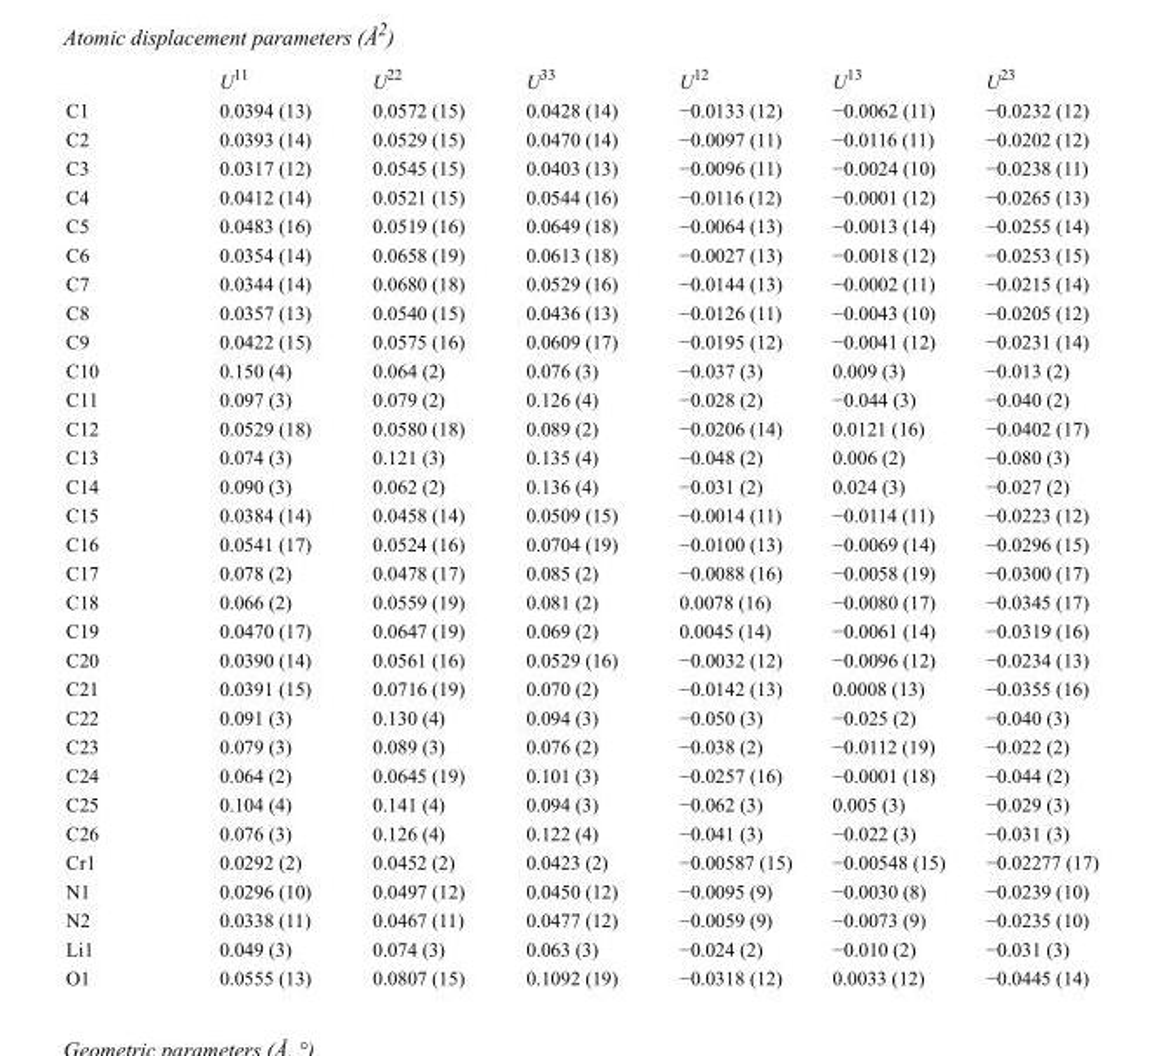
<table><thead><tr><td></td><td>U<sup>11</sup></td><td>U<sup>22</sup></td><td>U<sup>33</sup></td><td>U<sup>12</sup></td><td>U<sup>13</sup></td><td>U<sup>23</sup></td></tr></thead><tbody><tr><td>C1</td><td>0.0394 (13)</td><td>0.0572 (15)</td><td>0.0428 (14)</td><td>−0.0133 (12)</td><td>−0.0062 (11)</td><td>−0.0232 (12)</td></tr><tr><td>C2</td><td>0.0393 (14)</td><td>0.0529 (15)</td><td>0.0470 (14)</td><td>−0.0097 (11)</td><td>−0.0116 (11)</td><td>−0.0202 (12)</td></tr><tr><td>C3</td><td>0.0317 (12)</td><td>0.0545 (15)</td><td>0.0403 (13)</td><td>−0.0096 (11)</td><td>−0.0024 (10)</td><td>−0.0238 (11)</td></tr><tr><td>C4</td><td>0.0412 (14)</td><td>0.0521 (15)</td><td>0.0544 (16)</td><td>−0.0116 (12)</td><td>−0.0001 (12)</td><td>−0.0265 (13)</td></tr><tr><td>C5</td><td>0.0483 (16)</td><td>0.0519 (16)</td><td>0.0649 (18)</td><td>−0.0064 (13)</td><td>−0.0013 (14)</td><td>−0.0255 (14)</td></tr><tr><td>C6</td><td>0.0354 (14)</td><td>0.0658 (19)</td><td>0.0613 (18)</td><td>−0.0027 (13)</td><td>−0.0018 (12)</td><td>−0.0253 (15)</td></tr><tr><td>C7</td><td>0.0344 (14)</td><td>0.0680 (18)</td><td>0.0529 (16)</td><td>−0.0144 (13)</td><td>−0.0002 (11)</td><td>−0.0215 (14)</td></tr><tr><td>C8</td><td>0.0357 (13)</td><td>0.0540 (15)</td><td>0.0436 (13)</td><td>−0.0126 (11)</td><td>−0.0043 (10)</td><td>−0.0205 (12)</td></tr><tr><td>C9</td><td>0.0422 (15)</td><td>0.0575 (16)</td><td>0.0609 (17)</td><td>−0.0195 (12)</td><td>−0.0041 (12)</td><td>−0.0231 (14)</td></tr><tr><td>C10</td><td>0.150 (4)</td><td>0.064 (2)</td><td>0.076 (3)</td><td>−0.037 (3)</td><td>0.009 (3)</td><td>−0.013 (2)</td></tr><tr><td>C11</td><td>0.097 (3)</td><td>0.079 (2)</td><td>0.126 (4)</td><td>−0.028 (2)</td><td>−0.044 (3)</td><td>−0.040 (2)</td></tr><tr><td>C12</td><td>0.0529 (18)</td><td>0.0580 (18)</td><td>0.089 (2)</td><td>−0.0206 (14)</td><td>0.0121 (16)</td><td>−0.0402 (17)</td></tr><tr><td>C13</td><td>0.074 (3)</td><td>0.121 (3)</td><td>0.135 (4)</td><td>−0.048 (2)</td><td>0.006 (2)</td><td>−0.080 (3)</td></tr><tr><td>C14</td><td>0.090 (3)</td><td>0.062 (2)</td><td>0.136 (4)</td><td>−0.031 (2)</td><td>0.024 (3)</td><td>−0.027 (2)</td></tr><tr><td>C15</td><td>0.0384 (14)</td><td>0.0458 (14)</td><td>0.0509 (15)</td><td>−0.0014 (11)</td><td>−0.0114 (11)</td><td>−0.0223 (12)</td></tr><tr><td>C16</td><td>0.0541 (17)</td><td>0.0524 (16)</td><td>0.0704 (19)</td><td>−0.0100 (13)</td><td>−0.0069 (14)</td><td>−0.0296 (15)</td></tr><tr><td>C17</td><td>0.078 (2)</td><td>0.0478 (17)</td><td>0.085 (2)</td><td>−0.0088 (16)</td><td>−0.0058 (19)</td><td>−0.0300 (17)</td></tr><tr><td>C18</td><td>0.066 (2)</td><td>0.0559 (19)</td><td>0.081 (2)</td><td>0.0078 (16)</td><td>−0.0080 (17)</td><td>−0.0345 (17)</td></tr><tr><td>C19</td><td>0.0470 (17)</td><td>0.0647 (19)</td><td>0.069 (2)</td><td>0.0045 (14)</td><td>−0.0061 (14)</td><td>−0.0319 (16)</td></tr><tr><td>C20</td><td>0.0390 (14)</td><td>0.0561 (16)</td><td>0.0529 (16)</td><td>−0.0032 (12)</td><td>−0.0096 (12)</td><td>−0.0234 (13)</td></tr><tr><td>C21</td><td>0.0391 (15)</td><td>0.0716 (19)</td><td>0.070 (2)</td><td>−0.0142 (13)</td><td>0.0008 (13)</td><td>−0.0355 (16)</td></tr><tr><td>C22</td><td>0.091 (3)</td><td>0.130 (4)</td><td>0.094 (3)</td><td>−0.050 (3)</td><td>−0.025 (2)</td><td>−0.040 (3)</td></tr><tr><td>C23</td><td>0.079 (3)</td><td>0.089 (3)</td><td>0.076 (2)</td><td>−0.038 (2)</td><td>−0.0112 (19)</td><td>−0.022 (2)</td></tr><tr><td>C24</td><td>0.064 (2)</td><td>0.0645 (19)</td><td>0.101 (3)</td><td>−0.0257 (16)</td><td>−0.0001 (18)</td><td>−0.044 (2)</td></tr><tr><td>C25</td><td>0.104 (4)</td><td>0.141 (4)</td><td>0.094 (3)</td><td>−0.062 (3)</td><td>0.005 (3)</td><td>−0.029 (3)</td></tr><tr><td>C26</td><td>0.076 (3)</td><td>0.126 (4)</td><td>0.122 (4)</td><td>−0.041 (3)</td><td>−0.022 (3)</td><td>−0.031 (3)</td></tr><tr><td>Cr1</td><td>0.0292 (2)</td><td>0.0452 (2)</td><td>0.0423 (2)</td><td>−0.00587 (15)</td><td>−0.00548 (15)</td><td>−0.02277 (17)</td></tr><tr><td>N1</td><td>0.0296 (10)</td><td>0.0497 (12)</td><td>0.0450 (12)</td><td>−0.0095 (9)</td><td>−0.0030 (8)</td><td>−0.0239 (10)</td></tr><tr><td>N2</td><td>0.0338 (11)</td><td>0.0467 (11)</td><td>0.0477 (12)</td><td>−0.0059 (9)</td><td>−0.0073 (9)</td><td>−0.0235 (10)</td></tr><tr><td>Li1</td><td>0.049 (3)</td><td>0.074 (3)</td><td>0.063 (3)</td><td>−0.024 (2)</td><td>−0.010 (2)</td><td>−0.031 (3)</td></tr><tr><td>O1</td><td>0.0555 (13)</td><td>0.0807 (15)</td><td>0.1092 (19)</td><td>−0.0318 (12)</td><td>0.0033 (12)</td><td>−0.0445 (14)</td></tr></tbody></table>